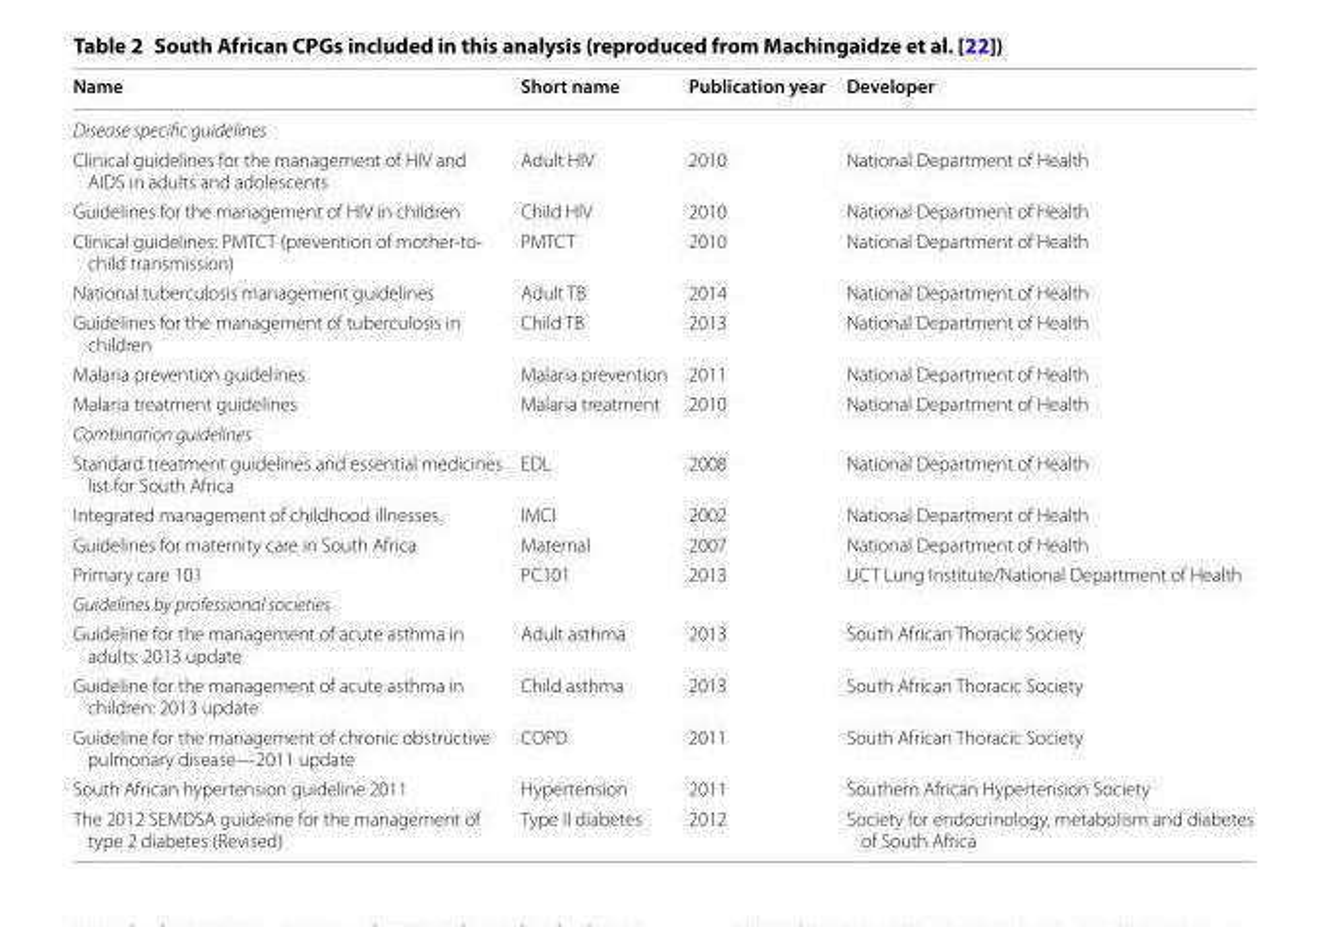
<table><thead><tr><td>Name</td><td>Short name</td><td>Publication year</td><td>Developer</td></tr></thead><tbody><tr><td colspan="4">Disease specific guidelines</td></tr><tr><td>Clinical guidelines for the management of HIV and AIDS in adults and adolescents</td><td>Adult HIV</td><td>2010</td><td>National Department of Health</td></tr><tr><td>Guidelines for the management of HIV in children</td><td>Child HIV</td><td>2010</td><td>National Department of Health</td></tr><tr><td>Clinical guidelines: PMTCT (prevention of mother-to- child transmission)</td><td>PMTCT</td><td>2010</td><td>National Department of Health</td></tr><tr><td>National tuberculosis management guidelines</td><td>Adult TB</td><td>2014</td><td>National Department of Health</td></tr><tr><td>Guidelines for the management of tuberculosis in children</td><td>Child TB</td><td>2013</td><td>National Department of Health</td></tr><tr><td>Malaria prevention guidelines</td><td>Malaria prevention</td><td>2011</td><td>National Department of Health</td></tr><tr><td>Malaria treatment guidelines</td><td>Malaria treatment</td><td>2010</td><td>National Department of Health</td></tr><tr><td colspan="4">Combination guidelines</td></tr><tr><td>Standard treatment guidelines and essential medicines list for South Africa</td><td>EDL</td><td>2008</td><td>National Department of Health</td></tr><tr><td>Integrated management of childhood illnesses</td><td>IMCI</td><td>2002</td><td>National Department of Health</td></tr><tr><td>Guidelines for maternity care in South Africa</td><td>Maternal</td><td>2007</td><td>National Department of Health</td></tr><tr><td>Primary care 101</td><td>PC101</td><td>2013</td><td>UCT Lung Institute/National Department of Health</td></tr><tr><td colspan="4">Guidelines by professional societies</td></tr><tr><td>Guideline for the management of acute asthma in adults: 2013 update</td><td>Adult asthma</td><td>2013</td><td>South African Thoracic Society</td></tr><tr><td>Guideline for the management of acute asthma in children: 2013 update</td><td>Child asthma</td><td>2013</td><td>South African Thoracic Society</td></tr><tr><td>Guideline for the management of chronic obstructive pulmonary disease—2011 update</td><td>COPD</td><td>2011</td><td>South African Thoracic Society</td></tr><tr><td>South African hypertension guideline 2011</td><td>Hypertension</td><td>2011</td><td>Southern African Hypertension Society</td></tr><tr><td>The 2012 SEMDSA guideline for the management of type 2 diabetes (Revised)</td><td>Type II diabetes</td><td>2012</td><td>Society for endocrinology, metabolism and diabetes of South Africa</td></tr></tbody></table>